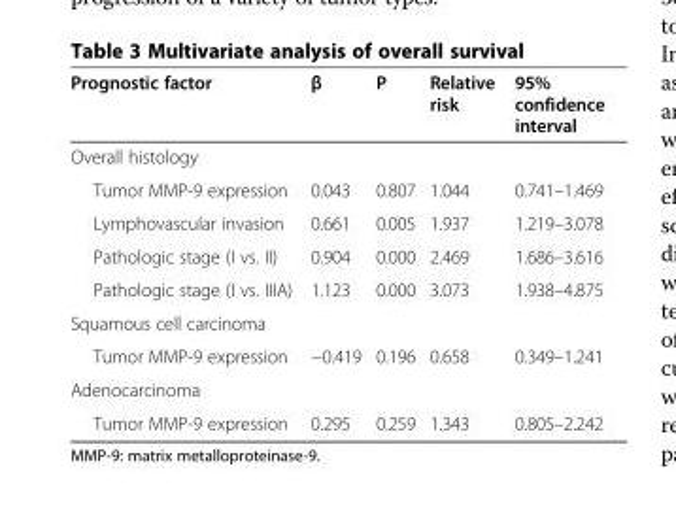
<table><thead><tr><td>Prognostic factor</td><td>β</td><td>P</td><td>Relative risk</td><td>95% confidence interval</td></tr></thead><tbody><tr><td colspan="5">Overall histology</td></tr><tr><td>Tumor MMP-9 expression</td><td>0.043</td><td>0.807</td><td>1.044</td><td>0.741–1.469</td></tr><tr><td>Lymphovascular invasion</td><td>0.661</td><td>0.005</td><td>1.937</td><td>1.219–3.078</td></tr><tr><td>Pathologic stage (I vs. II)</td><td>0.904</td><td>0.000</td><td>2.469</td><td>1.686–3.616</td></tr><tr><td>Pathologic stage (I vs. IIIA)</td><td>1.123</td><td>0.000</td><td>3.073</td><td>1.938–4.875</td></tr><tr><td colspan="5">Squamous cell carcinoma</td></tr><tr><td>Tumor MMP-9 expression</td><td>−0.419</td><td>0.196</td><td>0.658</td><td>0.349–1.241</td></tr><tr><td colspan="5">Adenocarcinoma</td></tr><tr><td>Tumor MMP-9 expression</td><td>0.295</td><td>0.259</td><td>1.343</td><td>0.805–2.242</td></tr></tbody></table>